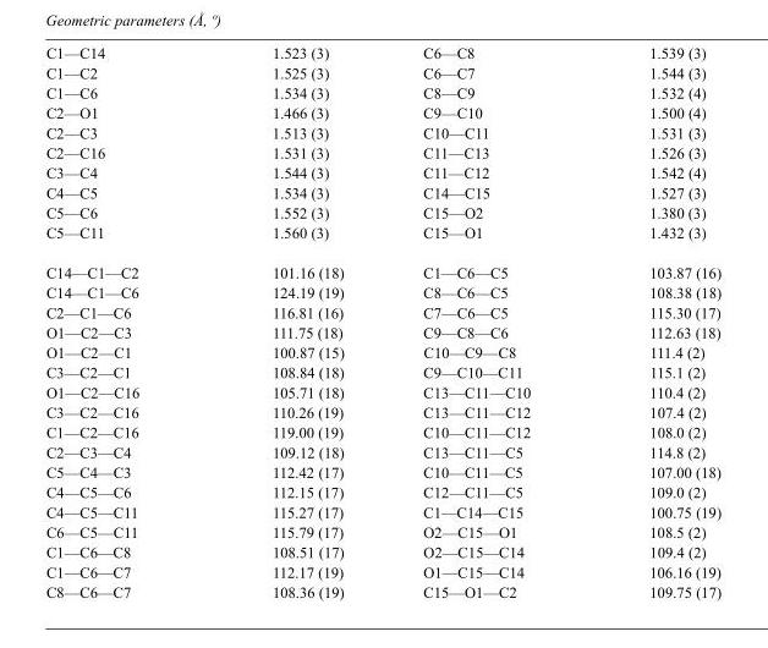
<table><tbody><tr><td>C1—C14</td><td>1.523 (3)</td><td>C6—C8</td><td>1.539 (3)</td></tr><tr><td>C1—C2</td><td>1.525 (3)</td><td>C6—C7</td><td>1.544 (3)</td></tr><tr><td>C1—C6</td><td>1.534 (3)</td><td>C8—C9</td><td>1.532 (4)</td></tr><tr><td>C2—O1</td><td>1.466 (3)</td><td>C9—C10</td><td>1.500 (4)</td></tr><tr><td>C2—C3</td><td>1.513 (3)</td><td>C10—C11</td><td>1.531 (3)</td></tr><tr><td>C2—C16</td><td>1.531 (3)</td><td>C11—C13</td><td>1.526 (3)</td></tr><tr><td>C3—C4</td><td>1.544 (3)</td><td>C11—C12</td><td>1.542 (4)</td></tr><tr><td>C4—C5</td><td>1.534 (3)</td><td>C14—C15</td><td>1.527 (3)</td></tr><tr><td>C5—C6</td><td>1.552 (3)</td><td>C15—O2</td><td>1.380 (3)</td></tr><tr><td>C5—C11</td><td>1.560 (3)</td><td>C15—O1</td><td>1.432 (3)</td></tr><tr><td>C14—C1—C2</td><td>101.16 (18)</td><td>C1—C6—C5</td><td>103.87 (16)</td></tr><tr><td>C14—C1—C6</td><td>124.19 (19)</td><td>C8—C6—C5</td><td>108.38 (18)</td></tr><tr><td>C2—C1—C6</td><td>116.81 (16)</td><td>C7—C6—C5</td><td>115.30 (17)</td></tr><tr><td>O1—C2—C3</td><td>111.75 (18)</td><td>C9—C8—C6</td><td>112.63 (18)</td></tr><tr><td>O1—C2—C1</td><td>100.87 (15)</td><td>C10—C9—C8</td><td>111.4 (2)</td></tr><tr><td>C3—C2—C1</td><td>108.84 (18)</td><td>C9—C10—C11</td><td>115.1 (2)</td></tr><tr><td>O1—C2—C16</td><td>105.71 (18)</td><td>C13—C11—C10</td><td>110.4 (2)</td></tr><tr><td>C3—C2—C16</td><td>110.26 (19)</td><td>C13—C11—C12</td><td>107.4 (2)</td></tr><tr><td>C1—C2—C16</td><td>119.00 (19)</td><td>C10—C11—C12</td><td>108.0 (2)</td></tr><tr><td>C2—C3—C4</td><td>109.12 (18)</td><td>C13—C11—C5</td><td>114.8 (2)</td></tr><tr><td>C5—C4—C3</td><td>112.42 (17)</td><td>C10—C11—C5</td><td>107.00 (18)</td></tr><tr><td>C4—C5—C6</td><td>112.15 (17)</td><td>C12—C11—C5</td><td>109.0 (2)</td></tr><tr><td>C4—C5—C11</td><td>115.27 (17)</td><td>C1—C14—C15</td><td>100.75 (19)</td></tr><tr><td>C6—C5—C11</td><td>115.79 (17)</td><td>O2—C15—O1</td><td>108.5 (2)</td></tr><tr><td>C1—C6—C8</td><td>108.51 (17)</td><td>O2—C15—C14</td><td>109.4 (2)</td></tr><tr><td>C1—C6—C7</td><td>112.17 (19)</td><td>O1—C15—C14</td><td>106.16 (19)</td></tr><tr><td>C8—C6—C7</td><td>108.36 (19)</td><td>C15—O1—C2</td><td>109.75 (17)</td></tr></tbody></table>